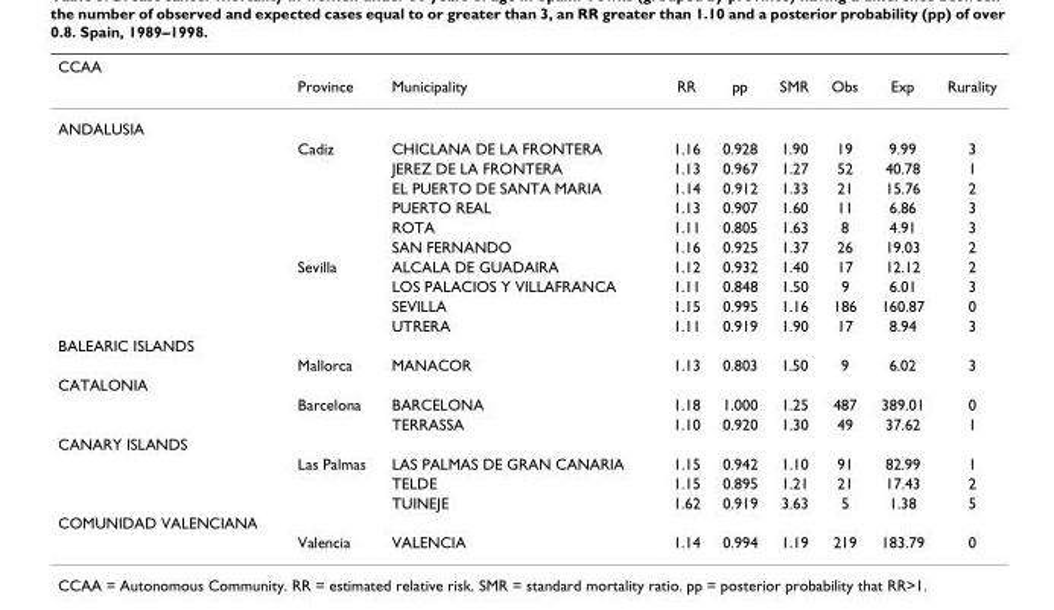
<table><thead><tr><td rowspan="2">CCAA</td><td rowspan="2">Province</td><td rowspan="2">Municipality</td><td rowspan="2">RR</td><td rowspan="2">pp</td><td rowspan="2">SMR</td><td rowspan="2">Obs</td><td rowspan="2">Exp</td><td rowspan="2">Rurality</td></tr><tr></tr></thead><tbody><tr><td colspan="9">ANDALUSIA</td></tr><tr><td></td><td>Cadiz</td><td>CHICLANA DE LA FRONTERA</td><td>1.16</td><td>0.928</td><td>1.90</td><td>19</td><td>9.99</td><td>3</td></tr><tr><td></td><td></td><td>JEREZ DE LA FRONTERA</td><td>1.13</td><td>0.967</td><td>1.27</td><td>52</td><td>40.78</td><td>1</td></tr><tr><td></td><td></td><td>EL PUERTO DE SANTA MARIA</td><td>1.14</td><td>0.912</td><td>1.33</td><td>21</td><td>15.76</td><td>2</td></tr><tr><td></td><td></td><td>PUERTO REAL</td><td>1.13</td><td>0.907</td><td>1.60</td><td>11</td><td>6.86</td><td>3</td></tr><tr><td></td><td></td><td>ROTA</td><td>1.11</td><td>0.805</td><td>1.63</td><td>8</td><td>4.91</td><td>3</td></tr><tr><td></td><td></td><td>SAN FERNANDO</td><td>1.16</td><td>0.925</td><td>1.37</td><td>26</td><td>19.03</td><td>2</td></tr><tr><td></td><td>Sevilla</td><td>ALCALA DE GUADAIRA</td><td>1.12</td><td>0.932</td><td>1.40</td><td>17</td><td>12.12</td><td>2</td></tr><tr><td></td><td></td><td>LOS PALACIOS Y VILLAFRANCA</td><td>1.11</td><td>0.848</td><td>1.50</td><td>9</td><td>6.01</td><td>3</td></tr><tr><td></td><td></td><td>SEVILLA</td><td>1.15</td><td>0.995</td><td>1.16</td><td>186</td><td>160.87</td><td>0</td></tr><tr><td></td><td></td><td>UTRERA</td><td>1.11</td><td>0.919</td><td>1.90</td><td>17</td><td>8.94</td><td>3</td></tr><tr><td colspan="9">BALEARIC ISLANDS</td></tr><tr><td></td><td>Mallorca</td><td>MANACOR</td><td>1.13</td><td>0.803</td><td>1.50</td><td>9</td><td>6.02</td><td>3</td></tr><tr><td colspan="9">CATALONIA</td></tr><tr><td></td><td>Barcelona</td><td>BARCELONA</td><td>1.18</td><td>1.000</td><td>1.25</td><td>487</td><td>389.01</td><td>0</td></tr><tr><td></td><td></td><td>TERRASSA</td><td>1.10</td><td>0.920</td><td>1.30</td><td>49</td><td>37.62</td><td>1</td></tr><tr><td colspan="9">CANARY ISLANDS</td></tr><tr><td></td><td>Las Palmas</td><td>LAS PALMAS DE GRAN CANARIA</td><td>1.15</td><td>0.942</td><td>1.10</td><td>91</td><td>82.99</td><td>1</td></tr><tr><td></td><td></td><td>TELDE</td><td>1.15</td><td>0.895</td><td>1.21</td><td>21</td><td>17.43</td><td>2</td></tr><tr><td></td><td></td><td>TUINEJE</td><td>1.62</td><td>0.919</td><td>3.63</td><td>5</td><td>1.38</td><td>5</td></tr><tr><td colspan="9">COMUNIDAD VALENCIANA</td></tr><tr><td></td><td>Valencia</td><td>VALENCIA</td><td>1.14</td><td>0.994</td><td>1.19</td><td>219</td><td>183.79</td><td>0</td></tr></tbody></table>